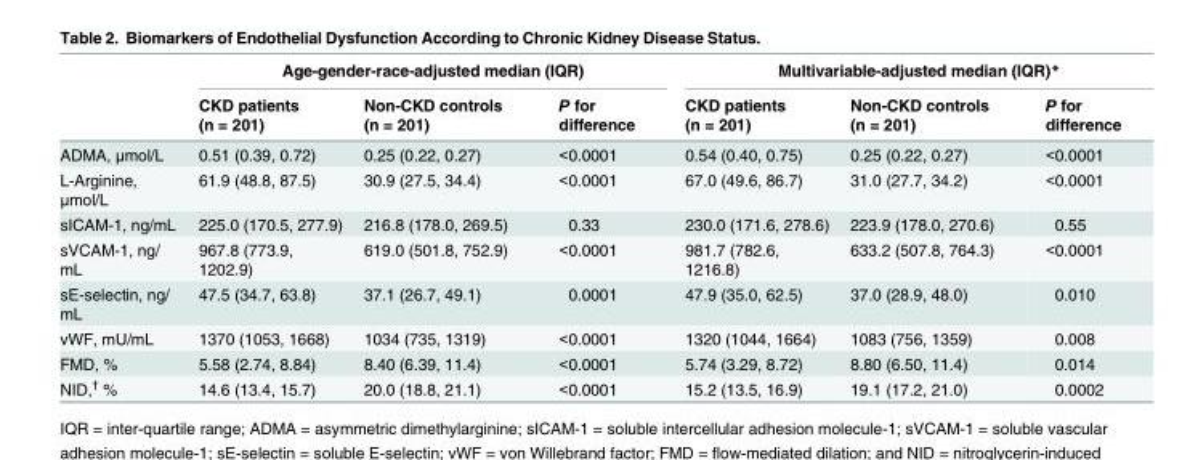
<table><thead><tr><td rowspan="2"></td><td colspan="3">Age-gender-race-adjusted median (IQR)</td><td colspan="3">Multivariable-adjusted median (IQR)*</td></tr><tr><td>CKD patients (n = 201)</td><td>Non-CKD controls (n = 201)</td><td>P for difference</td><td>CKD patients (n = 201)</td><td>Non-CKD controls (n = 201)</td><td>P for difference</td></tr></thead><tbody><tr><td>ADMA, μmol/L</td><td>0.51 (0.39, 0.72)</td><td>0.25 (0.22, 0.27)</td><td>&lt;0.0001</td><td>0.54 (0.40, 0.75)</td><td>0.25 (0.22, 0.27)</td><td>&lt;0.0001</td></tr><tr><td>L-Arginine, μmol/L</td><td>61.9 (48.8, 87.5)</td><td>30.9 (27.5, 34.4)</td><td>&lt;0.0001</td><td>67.0 (49.6, 86.7)</td><td>31.0 (27.7, 34.2)</td><td>&lt;0.0001</td></tr><tr><td>sICAM-1, ng/mL</td><td>225.0 (170.5, 277.9)</td><td>216.8 (178.0, 269.5)</td><td>0.33</td><td>230.0 (171.6, 278.6)</td><td>223.9 (178.0, 270.6)</td><td>0.55</td></tr><tr><td>sVCAM-1, ng/ mL</td><td>967.8 (773.9, 1202.9)</td><td>619.0 (501.8, 752.9)</td><td>&lt;0.0001</td><td>981.7 (782.6, 1216.8)</td><td>633.2 (507.8, 764.3)</td><td>&lt;0.0001</td></tr><tr><td>sE-selectin, ng/ mL</td><td>47.5 (34.7, 63.8)</td><td>37.1 (26.7, 49.1)</td><td>0.0001</td><td>47.9 (35.0, 62.5)</td><td>37.0 (28.9, 48.0)</td><td>0.010</td></tr><tr><td>vWF, mU/mL</td><td>1370 (1053, 1668)</td><td>1034 (735, 1319)</td><td>&lt;0.0001</td><td>1320 (1044, 1664)</td><td>1083 (756, 1359)</td><td>0.008</td></tr><tr><td>FMD, %</td><td>5.58 (2.74, 8.84)</td><td>8.40 (6.39, 11.4)</td><td>&lt;0.0001</td><td>5.74 (3.29, 8.72)</td><td>8.80 (6.50, 11.4)</td><td>0.014</td></tr><tr><td>NID,<sup>†</sup> %</td><td>14.6 (13.4, 15.7)</td><td>20.0 (18.8, 21.1)</td><td>&lt;0.0001</td><td>15.2 (13.5, 16.9)</td><td>19.1 (17.2, 21.0)</td><td>0.0002</td></tr></tbody></table>